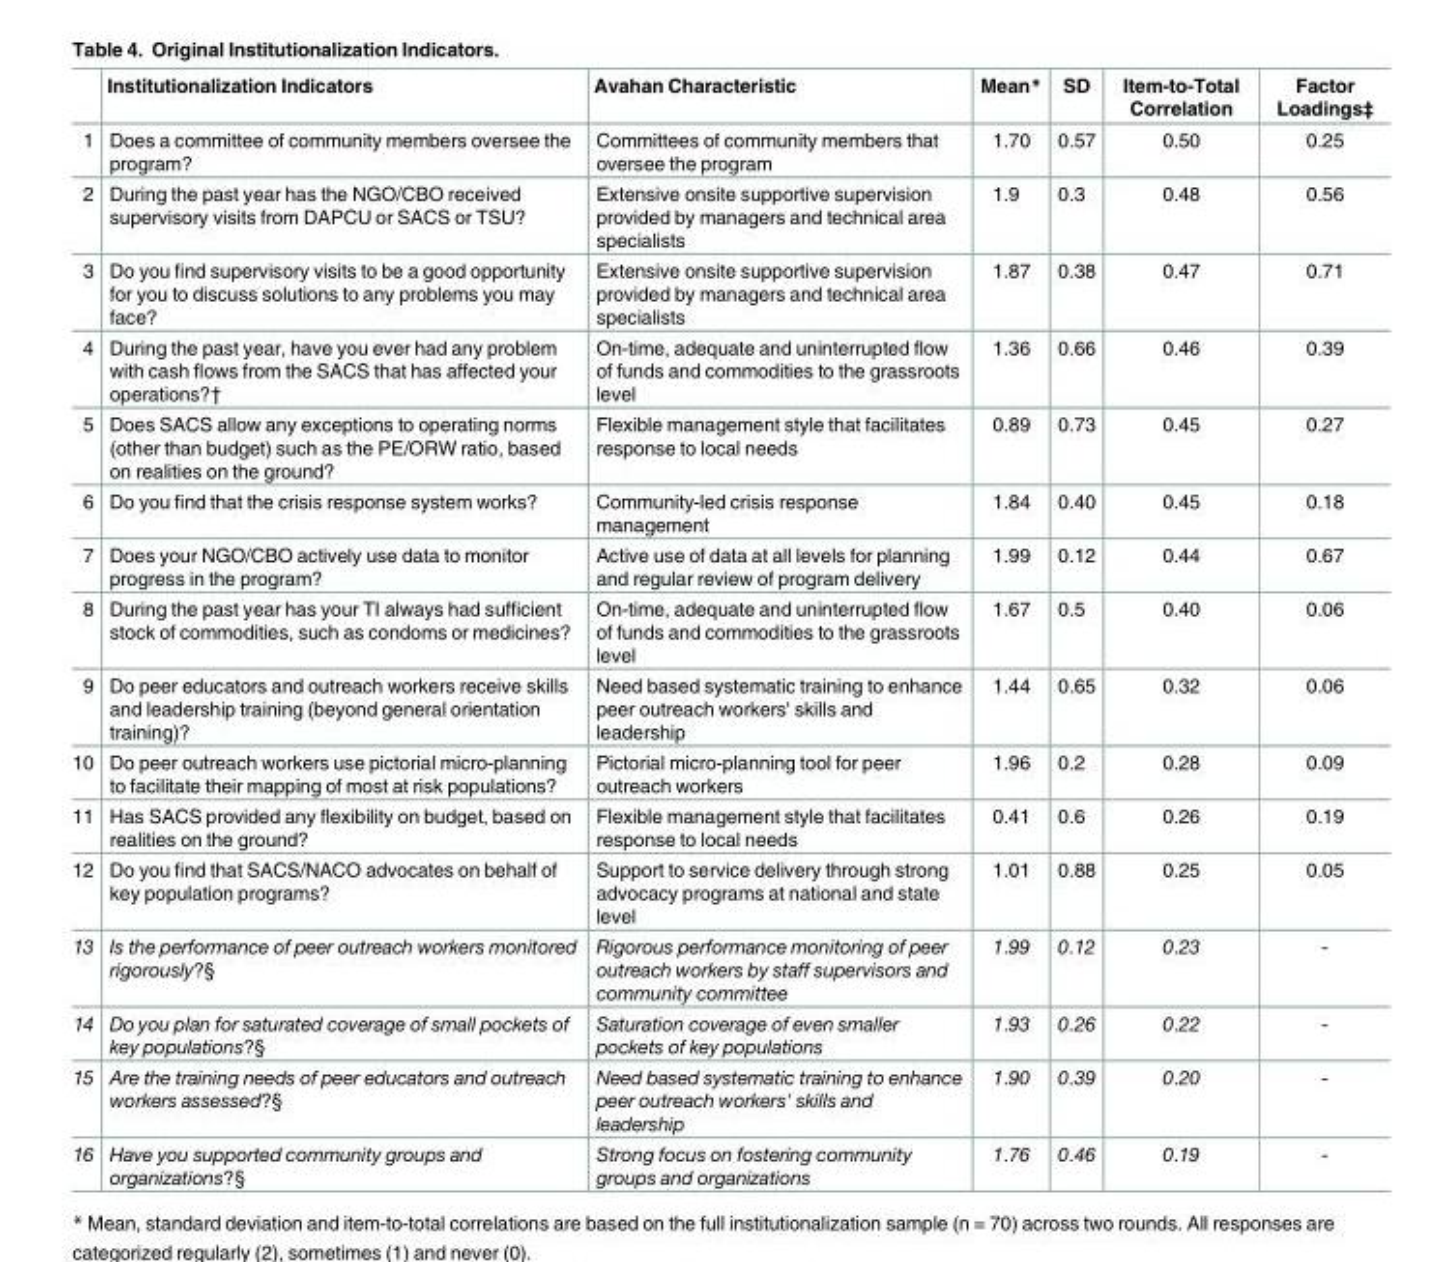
<table><thead><tr><td></td><td>Institutionalization Indicators</td><td>Avahan Characteristic</td><td>Mean*</td><td>SD</td><td>Item-to-Total Correlation</td><td>Factor Loadings‡</td></tr></thead><tbody><tr><td>1</td><td>Does a committee of community members oversee the program?</td><td>Committees of community members that oversee the program</td><td>1.70</td><td>0.57</td><td>0.50</td><td>0.25</td></tr><tr><td>2</td><td>During the past year has the NGO/CBO received supervisory visits from DAPCU or SACS or TSU?</td><td>Extensive onsite supportive supervision provided by managers and technical area specialists</td><td>1.9</td><td>0.3</td><td>0.48</td><td>0.56</td></tr><tr><td>3</td><td>Do you find supervisory visits to be a good opportunity for you to discuss solutions to any problems you may face?</td><td>Extensive onsite supportive supervision provided by managers and technical area specialists</td><td>1.87</td><td>0.38</td><td>0.47</td><td>0.71</td></tr><tr><td>4</td><td>During the past year, have you ever had any problem with cash flows from the SACS that has affected your operations?†</td><td>On-time, adequate and uninterrupted flow of funds and commodities to the grassroots level</td><td>1.36</td><td>0.66</td><td>0.46</td><td>0.39</td></tr><tr><td>5</td><td>Does SACS allow any exceptions to operating norms (other than budget) such as the PE/ORW ratio, based on realities on the ground?</td><td>Flexible management style that facilitates response to local needs</td><td>0.89</td><td>0.73</td><td>0.45</td><td>0.27</td></tr><tr><td>6</td><td>Do you find that the crisis response system works?</td><td>Community-led crisis response management</td><td>1.84</td><td>0.40</td><td>0.45</td><td>0.18</td></tr><tr><td>7</td><td>Does your NGO/CBO actively use data to monitor progress in the program?</td><td>Active use of data at all levels for planning and regular review of program delivery</td><td>1.99</td><td>0.12</td><td>0.44</td><td>0.67</td></tr><tr><td>8</td><td>During the past year has your TI always had sufficient stock of commodities, such as condoms or medicines?</td><td>On-time, adequate and uninterrupted flow of funds and commodities to the grassroots level</td><td>1.67</td><td>0.5</td><td>0.40</td><td>0.06</td></tr><tr><td>9</td><td>Do peer educators and outreach workers receive skills and leadership training (beyond general orientation training)?</td><td>Need based systematic training to enhance peer outreach workers&#x27; skills and leadership</td><td>1.44</td><td>0.65</td><td>0.32</td><td>0.06</td></tr><tr><td>10</td><td>Do peer outreach workers use pictorial micro-planning to facilitate their mapping of most at risk populations?</td><td>Pictorial micro-planning tool for peer outreach workers</td><td>1.96</td><td>0.2</td><td>0.28</td><td>0.09</td></tr><tr><td>11</td><td>Has SACS provided any flexibility on budget, based on realities on the ground?</td><td>Flexible management style that facilitates response to local needs</td><td>0.41</td><td>0.6</td><td>0.26</td><td>0.19</td></tr><tr><td>12</td><td>Do you find that SACS/NACO advocates on behalf of key population programs?</td><td>Support to service delivery through strong advocacy programs at national and state level</td><td>1.01</td><td>0.88</td><td>0.25</td><td>0.05</td></tr><tr><td>13</td><td>Is the performance of peer outreach workers monitored rigorously?§</td><td>Rigorous performance monitoring of peer outreach workers by staff supervisors and community committee</td><td>1.99</td><td>0.12</td><td>0.23</td><td>-</td></tr><tr><td>14</td><td>Do you plan for saturated coverage of small pockets of key populations?§</td><td>Saturation coverage of even smaller pockets of key populations</td><td>1.93</td><td>0.26</td><td>0.22</td><td>-</td></tr><tr><td>15</td><td>Are the training needs of peer educators and outreach workers assessed?§</td><td>Need based systematic training to enhance peer outreach workers&#x27; skills and leadership</td><td>1.90</td><td>0.39</td><td>0.20</td><td>-</td></tr><tr><td>16</td><td>Have you supported community groups and organizations?§</td><td>Strong focus on fostering community groups and organizations</td><td>1.76</td><td>0.46</td><td>0.19</td><td>-</td></tr></tbody></table>